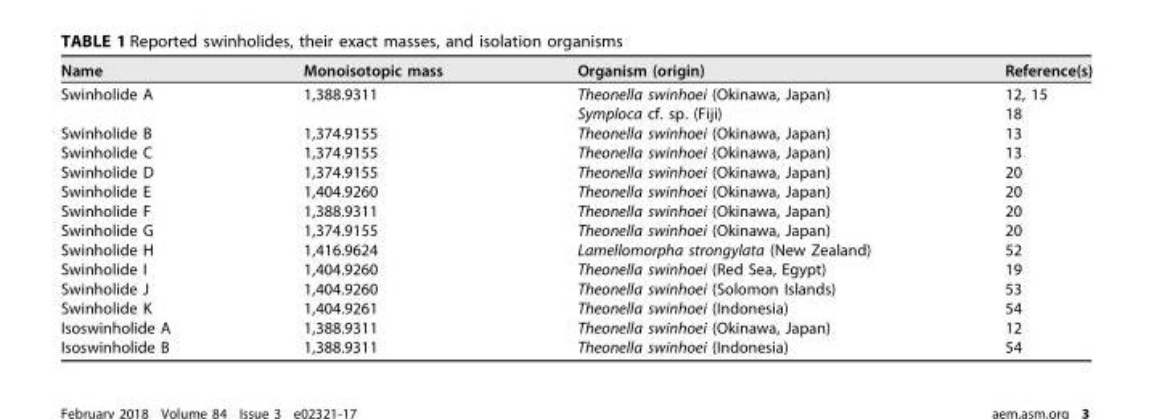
<table><thead><tr><td>Name</td><td>Monoisotopic mass</td><td>Organism (origin)</td><td>Reference(s)</td></tr></thead><tbody><tr><td rowspan="2">Swinholide A</td><td rowspan="2">1,388.9311</td><td>Theonella swinhoei (Okinawa, Japan)</td><td>12, 15</td></tr><tr><td>Symploca cf. sp. (Fiji)</td><td>18</td></tr><tr><td>Swinholide B</td><td>1,374.9155</td><td>Theonella swinhoei (Okinawa, Japan)</td><td>13</td></tr><tr><td>Swinholide C</td><td>1,374.9155</td><td>Theonella swinhoei (Okinawa, Japan)</td><td>13</td></tr><tr><td>Swinholide D</td><td>1,374.9155</td><td>Theonella swinhoei (Okinawa, Japan)</td><td>20</td></tr><tr><td>Swinholide E</td><td>1,404.9260</td><td>Theonella swinhoei (Okinawa, Japan)</td><td>20</td></tr><tr><td>Swinholide F</td><td>1,388.9311</td><td>Theonella swinhoei (Okinawa, Japan)</td><td>20</td></tr><tr><td>Swinholide G</td><td>1,374.9155</td><td>Theonella swinhoei (Okinawa, Japan)</td><td>20</td></tr><tr><td>Swinholide H</td><td>1,416.9624</td><td>Lamellomorpha strongylata (New Zealand)</td><td>52</td></tr><tr><td>Swinholide I</td><td>1,404.9260</td><td>Theonella swinhoei (Red Sea, Egypt)</td><td>19</td></tr><tr><td>Swinholide J</td><td>1,404.9260</td><td>Theonella swinhoei (Solomon Islands)</td><td>53</td></tr><tr><td>Swinholide K</td><td>1,404.9261</td><td>Theonella swinhoei (Indonesia)</td><td>54</td></tr><tr><td>Isoswinholide A</td><td>1,388.9311</td><td>Theonella swinhoei (Okinawa, Japan)</td><td>12</td></tr><tr><td>Isoswinholide B</td><td>1,388.9311</td><td>Theonella swinhoei (Indonesia)</td><td>54</td></tr></tbody></table>